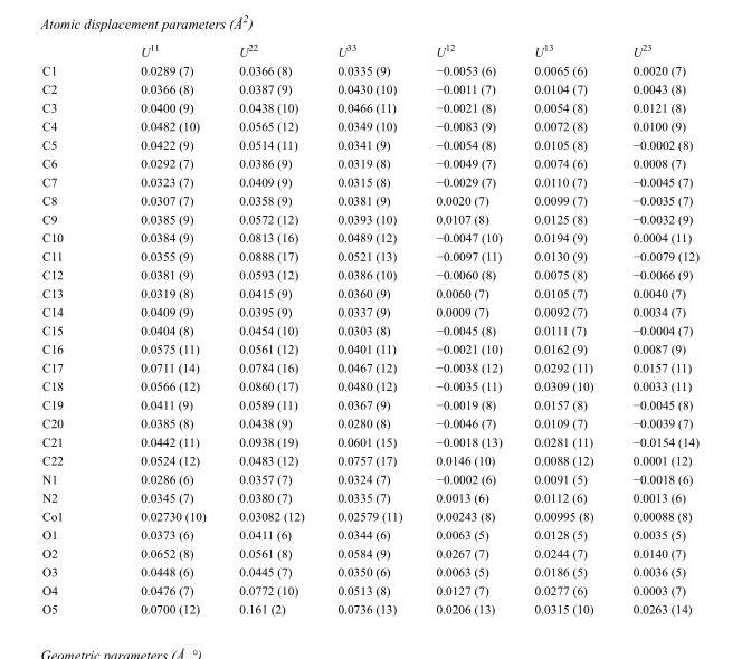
<table><thead><tr><td></td><td>U<sup>11</sup></td><td>U<sup>22</sup></td><td>U<sup>33</sup></td><td>U<sup>12</sup></td><td>U<sup>13</sup></td><td>U<sup>23</sup></td></tr></thead><tbody><tr><td>C1</td><td>0.0289 (7)</td><td>0.0366 (8)</td><td>0.0335 (9)</td><td>−0.0053 (6)</td><td>0.0065 (6)</td><td>0.0020 (7)</td></tr><tr><td>C2</td><td>0.0366 (8)</td><td>0.0387 (9)</td><td>0.0430 (10)</td><td>−0.0011 (7)</td><td>0.0104 (7)</td><td>0.0043 (8)</td></tr><tr><td>C3</td><td>0.0400 (9)</td><td>0.0438 (10)</td><td>0.0466 (11)</td><td>−0.0021 (8)</td><td>0.0054 (8)</td><td>0.0121 (8)</td></tr><tr><td>C4</td><td>0.0482 (10)</td><td>0.0565 (12)</td><td>0.0349 (10)</td><td>−0.0083 (9)</td><td>0.0072 (8)</td><td>0.0100 (9)</td></tr><tr><td>C5</td><td>0.0422 (9)</td><td>0.0514 (11)</td><td>0.0341 (9)</td><td>−0.0054 (8)</td><td>0.0105 (8)</td><td>−0.0002 (8)</td></tr><tr><td>C6</td><td>0.0292 (7)</td><td>0.0386 (9)</td><td>0.0319 (8)</td><td>−0.0049 (7)</td><td>0.0074 (6)</td><td>0.0008 (7)</td></tr><tr><td>C7</td><td>0.0323 (7)</td><td>0.0409 (9)</td><td>0.0315 (8)</td><td>−0.0029 (7)</td><td>0.0110 (7)</td><td>−0.0045 (7)</td></tr><tr><td>C8</td><td>0.0307 (7)</td><td>0.0358 (9)</td><td>0.0381 (9)</td><td>0.0020 (7)</td><td>0.0099 (7)</td><td>−0.0035 (7)</td></tr><tr><td>C9</td><td>0.0385 (9)</td><td>0.0572 (12)</td><td>0.0393 (10)</td><td>0.0107 (8)</td><td>0.0125 (8)</td><td>−0.0032 (9)</td></tr><tr><td>C10</td><td>0.0384 (9)</td><td>0.0813 (16)</td><td>0.0489 (12)</td><td>−0.0047 (10)</td><td>0.0194 (9)</td><td>0.0004 (11)</td></tr><tr><td>C11</td><td>0.0355 (9)</td><td>0.0888 (17)</td><td>0.0521 (13)</td><td>−0.0097 (11)</td><td>0.0130 (9)</td><td>−0.0079 (12)</td></tr><tr><td>C12</td><td>0.0381 (9)</td><td>0.0593 (12)</td><td>0.0386 (10)</td><td>−0.0060 (8)</td><td>0.0075 (8)</td><td>−0.0066 (9)</td></tr><tr><td>C13</td><td>0.0319 (8)</td><td>0.0415 (9)</td><td>0.0360 (9)</td><td>0.0060 (7)</td><td>0.0105 (7)</td><td>0.0040 (7)</td></tr><tr><td>C14</td><td>0.0409 (9)</td><td>0.0395 (9)</td><td>0.0337 (9)</td><td>0.0009 (7)</td><td>0.0092 (7)</td><td>0.0034 (7)</td></tr><tr><td>C15</td><td>0.0404 (8)</td><td>0.0454 (10)</td><td>0.0303 (8)</td><td>−0.0045 (8)</td><td>0.0111 (7)</td><td>−0.0004 (7)</td></tr><tr><td>C16</td><td>0.0575 (11)</td><td>0.0561 (12)</td><td>0.0401 (11)</td><td>−0.0021 (10)</td><td>0.0162 (9)</td><td>0.0087 (9)</td></tr><tr><td>C17</td><td>0.0711 (14)</td><td>0.0784 (16)</td><td>0.0467 (12)</td><td>−0.0038 (12)</td><td>0.0292 (11)</td><td>0.0157 (11)</td></tr><tr><td>C18</td><td>0.0566 (12)</td><td>0.0860 (17)</td><td>0.0480 (12)</td><td>−0.0035 (11)</td><td>0.0309 (10)</td><td>0.0033 (11)</td></tr><tr><td>C19</td><td>0.0411 (9)</td><td>0.0589 (11)</td><td>0.0367 (9)</td><td>−0.0019 (8)</td><td>0.0157 (8)</td><td>−0.0045 (8)</td></tr><tr><td>C20</td><td>0.0385 (8)</td><td>0.0438 (9)</td><td>0.0280 (8)</td><td>−0.0046 (7)</td><td>0.0109 (7)</td><td>−0.0039 (7)</td></tr><tr><td>C21</td><td>0.0442 (11)</td><td>0.0938 (19)</td><td>0.0601 (15)</td><td>−0.0018 (13)</td><td>0.0281 (11)</td><td>−0.0154 (14)</td></tr><tr><td>C22</td><td>0.0524 (12)</td><td>0.0483 (12)</td><td>0.0757 (17)</td><td>0.0146 (10)</td><td>0.0088 (12)</td><td>0.0001 (12)</td></tr><tr><td>N1</td><td>0.0286 (6)</td><td>0.0357 (7)</td><td>0.0324 (7)</td><td>−0.0002 (6)</td><td>0.0091 (5)</td><td>−0.0018 (6)</td></tr><tr><td>N2</td><td>0.0345 (7)</td><td>0.0380 (7)</td><td>0.0335 (7)</td><td>0.0013 (6)</td><td>0.0112 (6)</td><td>0.0013 (6)</td></tr><tr><td>Co1</td><td>0.02730 (10)</td><td>0.03082 (12)</td><td>0.02579 (11)</td><td>0.00243 (8)</td><td>0.00995 (8)</td><td>0.00088 (8)</td></tr><tr><td>O1</td><td>0.0373 (6)</td><td>0.0411 (6)</td><td>0.0344 (6)</td><td>0.0063 (5)</td><td>0.0128 (5)</td><td>0.0035 (5)</td></tr><tr><td>O2</td><td>0.0652 (8)</td><td>0.0561 (8)</td><td>0.0584 (9)</td><td>0.0267 (7)</td><td>0.0244 (7)</td><td>0.0140 (7)</td></tr><tr><td>O3</td><td>0.0448 (6)</td><td>0.0445 (7)</td><td>0.0350 (6)</td><td>0.0063 (5)</td><td>0.0186 (5)</td><td>0.0036 (5)</td></tr><tr><td>O4</td><td>0.0476 (7)</td><td>0.0772 (10)</td><td>0.0513 (8)</td><td>0.0127 (7)</td><td>0.0277 (6)</td><td>0.0003 (7)</td></tr><tr><td>O5</td><td>0.0700 (12)</td><td>0.161 (2)</td><td>0.0736 (13)</td><td>0.0206 (13)</td><td>0.0315 (10)</td><td>0.0263 (14)</td></tr></tbody></table>